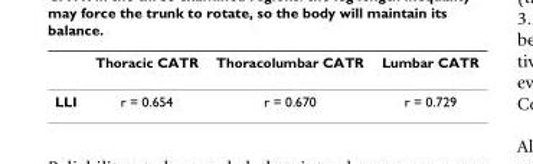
<table><thead><tr><td></td><td>Thoracic CATR</td><td>Thoracolumbar CATR</td><td>Lumbar CATR</td></tr></thead><tbody><tr><td>LLI</td><td>r = 0.654</td><td>r = 0.670</td><td>r = 0.729</td></tr></tbody></table>